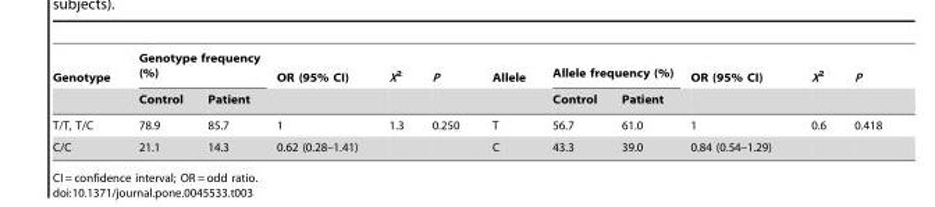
<table><thead><tr><td rowspan="2">Genotype</td><td colspan="2">Genotype frequency (%)</td><td rowspan="2">OR (95% CI)</td><td rowspan="2">X<sup>2</sup></td><td rowspan="2">P</td><td rowspan="2">Allele</td><td colspan="2">Allele frequency (%)</td><td rowspan="2">OR (95% CI)</td><td rowspan="2">X<sup>2</sup></td><td rowspan="2">P</td></tr><tr><td>Control</td><td>Patient</td><td>Control</td><td>Patient</td></tr></thead><tbody><tr><td>T/T, T/C</td><td>78.9</td><td>85.7</td><td>1</td><td>1.3</td><td>0.250</td><td>T</td><td>56.7</td><td>61.0</td><td>1</td><td>0.6</td><td>0.418</td></tr><tr><td>C/C</td><td>21.1</td><td>14.3</td><td>0.62 (0.28–1.41)</td><td></td><td></td><td>C</td><td>43.3</td><td>39.0</td><td>0.84 (0.54–1.29)</td><td></td><td></td></tr></tbody></table>